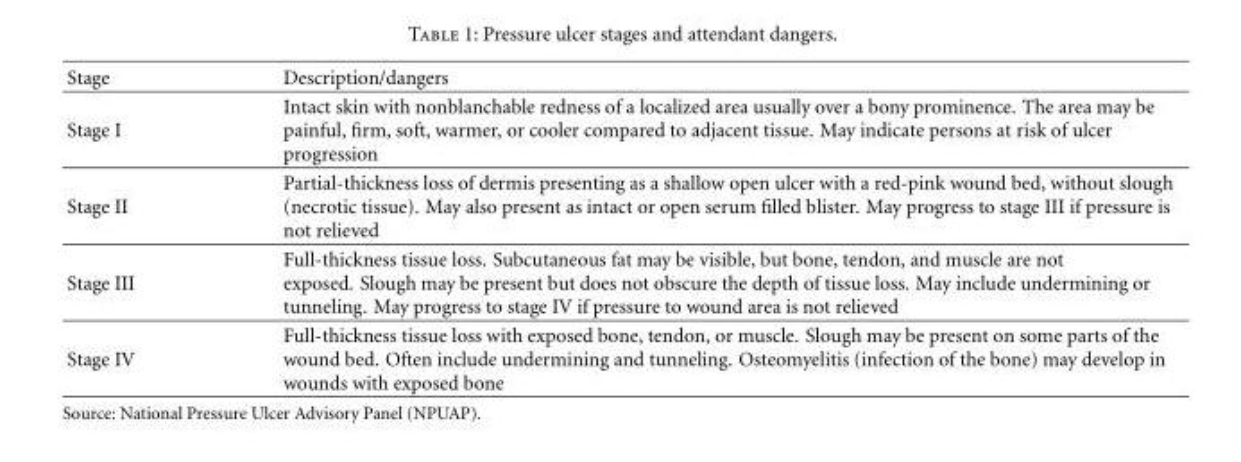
<table><thead><tr><td>Stage</td><td>Description/dangers</td></tr></thead><tbody><tr><td>Stage I</td><td>Intact skin with nonblanchable redness of a localized area usually over a bony prominence. The area may be painful, firm, soft, warmer, or cooler compared to adjacent tissue. May indicate persons at risk of ulcer progression</td></tr><tr><td>Stage II</td><td>Partial-thickness loss of dermis presenting as a shallow open ulcer with a red-pink wound bed, without slough (necrotic tissue). May also present as intact or open serum filled blister. May progress to stage III if pressure is not relieved</td></tr><tr><td>Stage III</td><td>Full-thickness tissue loss. Subcutaneous fat may be visible, but bone, tendon, and muscle are not exposed. Slough may be present but does not obscure the depth of tissue loss. May include undermining or tunneling. May progress to stage IV if pressure to wound area is not relieved</td></tr><tr><td>Stage IV</td><td>Full-thickness tissue loss with exposed bone, tendon, or muscle. Slough may be present on some parts of the wound bed. Often include undermining and tunneling. Osteomyelitis (infection of the bone) may develop in wounds with exposed bone</td></tr></tbody></table>